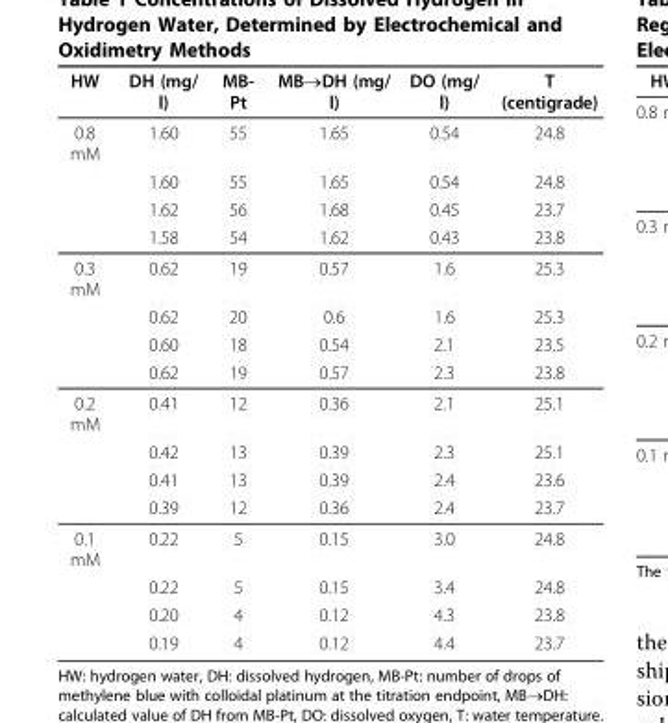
<table><thead><tr><td>HW</td><td>DH (mg/ l)</td><td>MB- Pt</td><td>MB→DH (mg/ l)</td><td>DO (mg/ l)</td><td>T (centigrade)</td></tr></thead><tbody><tr><td rowspan="4">0.8 mM</td><td>1.60</td><td>55</td><td>1.65</td><td>0.54</td><td>24.8</td></tr><tr><td>1.60</td><td>55</td><td>1.65</td><td>0.54</td><td>24.8</td></tr><tr><td>1.62</td><td>56</td><td>1.68</td><td>0.45</td><td>23.7</td></tr><tr><td>1.58</td><td>54</td><td>1.62</td><td>0.43</td><td>23.8</td></tr><tr><td rowspan="4">0.3 mM</td><td>0.62</td><td>19</td><td>0.57</td><td>1.6</td><td>25.3</td></tr><tr><td>0.62</td><td>20</td><td>0.6</td><td>1.6</td><td>25.3</td></tr><tr><td>0.60</td><td>18</td><td>0.54</td><td>2.1</td><td>23.5</td></tr><tr><td>0.62</td><td>19</td><td>0.57</td><td>2.3</td><td>23.8</td></tr><tr><td rowspan="4">0.2 mM</td><td>0.41</td><td>12</td><td>0.36</td><td>2.1</td><td>25.1</td></tr><tr><td>0.42</td><td>13</td><td>0.39</td><td>2.3</td><td>25.1</td></tr><tr><td>0.41</td><td>13</td><td>0.39</td><td>2.4</td><td>23.6</td></tr><tr><td>0.39</td><td>12</td><td>0.36</td><td>2.4</td><td>23.7</td></tr><tr><td rowspan="4">0.1 mM</td><td>0.22</td><td>5</td><td>0.15</td><td>3.0</td><td>24.8</td></tr><tr><td>0.22</td><td>5</td><td>0.15</td><td>3.4</td><td>24.8</td></tr><tr><td>0.20</td><td>4</td><td>0.12</td><td>4.3</td><td>23.8</td></tr><tr><td>0.19</td><td>4</td><td>0.12</td><td>4.4</td><td>23.7</td></tr></tbody></table>